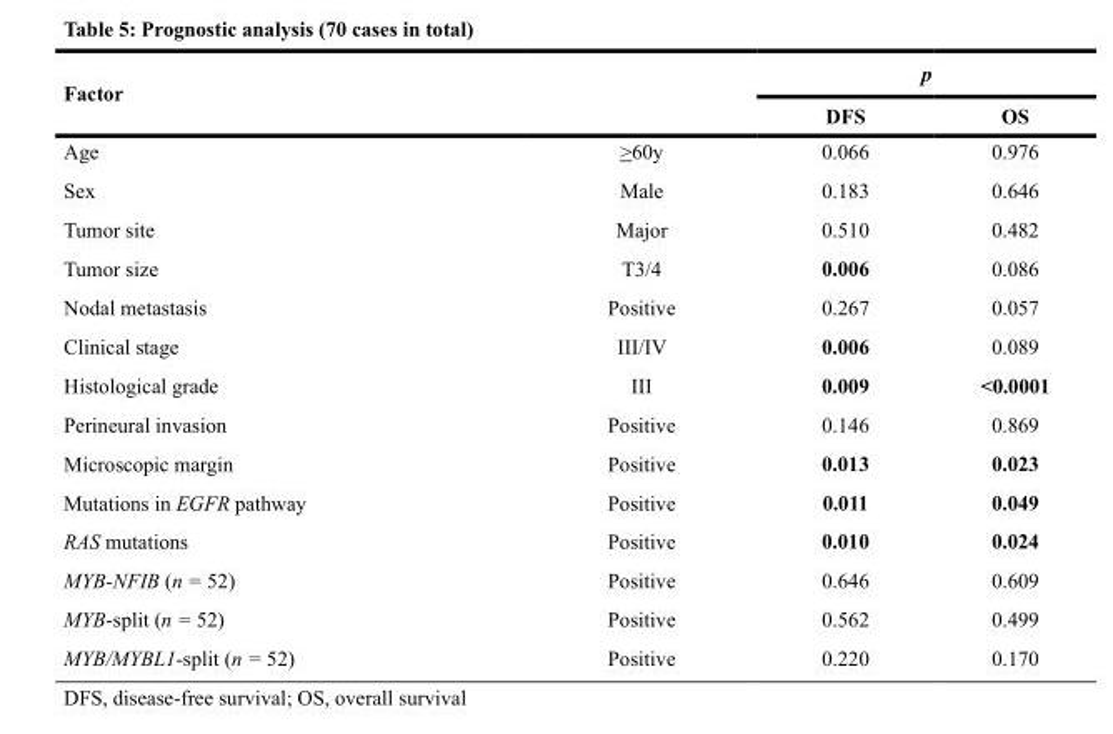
<table><thead><tr><td rowspan="2">Factor</td><td rowspan="2"></td><td colspan="2">p</td></tr><tr><td>DFS</td><td>OS</td></tr></thead><tbody><tr><td>Age</td><td>&gt;60y</td><td>0.066</td><td>0.976</td></tr><tr><td>Sex</td><td>Male</td><td>0.183</td><td>0.646</td></tr><tr><td>Tumor site</td><td>Major</td><td>0.510</td><td>0.482</td></tr><tr><td>Tumor size</td><td>T3/4</td><td>0.006</td><td>0.086</td></tr><tr><td>Nodal metastasis</td><td>Positive</td><td>0.267</td><td>0.057</td></tr><tr><td>Clinical stage</td><td>III/IV</td><td>0.006</td><td>0.089</td></tr><tr><td>Histological grade</td><td>III</td><td>0.009</td><td>&lt;0.0001</td></tr><tr><td>Perineural invasion</td><td>Positive</td><td>0.146</td><td>0.869</td></tr><tr><td>Microscopic margin</td><td>Positive</td><td>0.013</td><td>0.023</td></tr><tr><td>Mutations in EGFR pathway</td><td>Positive</td><td>0.011</td><td>0.049</td></tr><tr><td>RAS mutations</td><td>Positive</td><td>0.010</td><td>0.024</td></tr><tr><td>MYB-NFIB (n = 52)</td><td>Positive</td><td>0.646</td><td>0.609</td></tr><tr><td>MYB-split (n = 52)</td><td>Positive</td><td>0.562</td><td>0.499</td></tr><tr><td>MYB/MYBL1-split (n = 52)</td><td>Positive</td><td>0.220</td><td>0.170</td></tr></tbody></table>